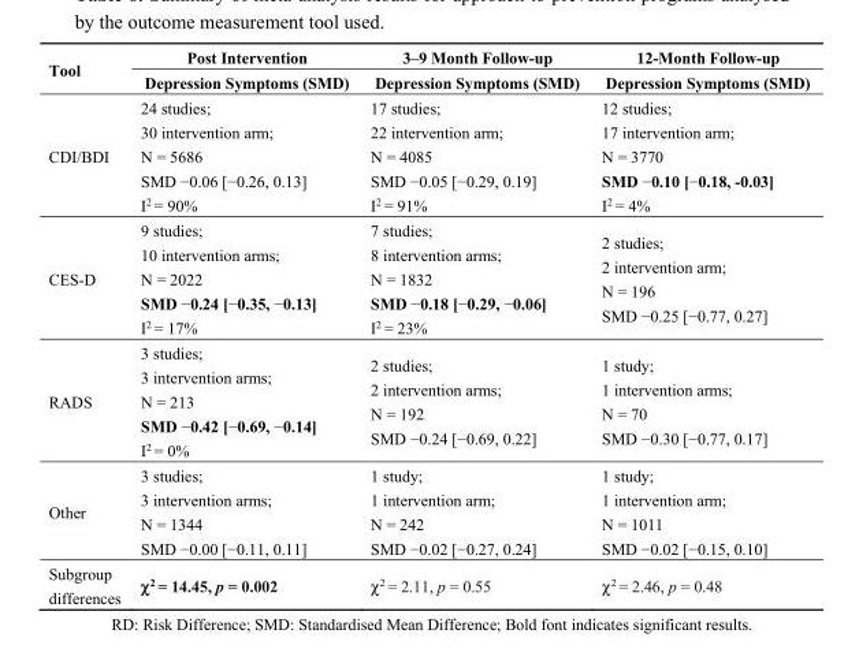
<table><thead><tr><td rowspan="2">Tool</td><td rowspan="2">Post Intervention Depression Symptoms (SMD)</td><td rowspan="2">3–9 Month Follow-up Depression Symptoms (SMD)</td><td rowspan="2">12-Month Follow-up Depression Symptoms (SMD)</td></tr><tr></tr></thead><tbody><tr><td>CDI/BDI</td><td>24 studies; 30 intervention arm; N = 5686 SMD −0.06 [−0.26, 0.13] I<sup>2</sup> = 90%</td><td>17 studies; 22 intervention arm; N = 4085 SMD −0.05 [−0.29, 0.19] I<sup>2</sup> = 91%</td><td>12 studies; 17 intervention arm; N = 3770 SMD −0.10 [−0.18, -0.03] I<sup>2</sup> = 4%</td></tr><tr><td>CES-D</td><td>9 studies; 10 intervention arms; N = 2022 SMD −0.24 [−0.35, −0.13] I<sup>2</sup> = 17%</td><td>7 studies; 8 intervention arms; N = 1832 SMD −0.18 [−0.29, −0.06] I<sup>2</sup> = 23%</td><td>2 studies; 2 intervention arm; N = 196 SMD −0.25 [−0.77, 0.27]</td></tr><tr><td>RADS</td><td>3 studies; 3 intervention arms; N = 213 SMD −0.42 [−0.69, −0.14] I<sup>2</sup> = 0%</td><td>2 studies; 2 intervention arms; N = 192 SMD −0.24 [−0.69, 0.22]</td><td>1 study; 1 intervention arms; N = 70 SMD −0.30 [−0.77, 0.17]</td></tr><tr><td>Other</td><td>3 studies; 3 intervention arms; N = 1344 SMD −0.00 [−0.11, 0.11]</td><td>1 study; 1 intervention arm; N = 242 SMD −0.02 [−0.27, 0.24]</td><td>1 study; 1 intervention arm; N = 1011 SMD −0.02 [−0.15, 0.10]</td></tr><tr><td>Subgroup differences</td><td>χ<sup>2</sup> = 14.45, p = 0.002</td><td>χ<sup>2</sup> = 2.11, p = 0.55</td><td>χ<sup>2</sup> = 2.46, p = 0.48</td></tr></tbody></table>